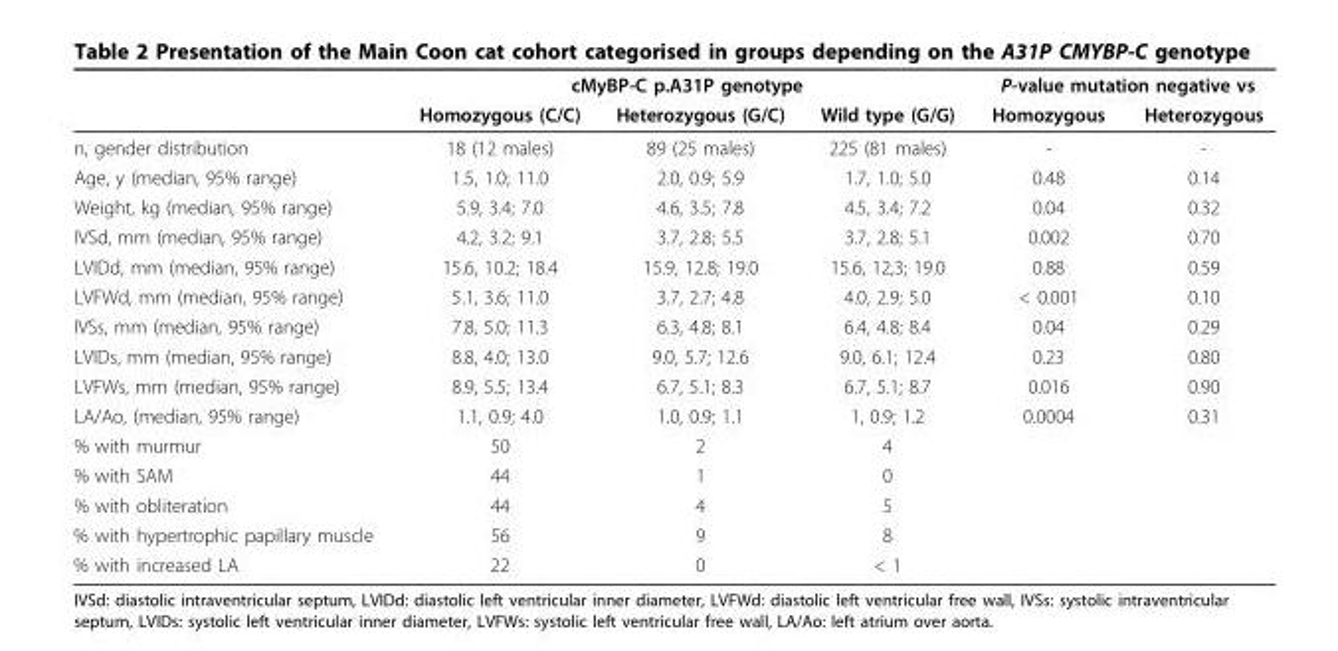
<table><thead><tr><td rowspan="2"></td><td colspan="3">cMyBP-C p.A31P genotype</td><td colspan="2">P-value mutation negative vs</td></tr><tr><td>Homozygous (C/C)</td><td>Heterozygous (G/C)</td><td>Wild type (G/G)</td><td>Homozygous</td><td>Heterozygous</td></tr></thead><tbody><tr><td>n, gender distribution</td><td>18 (12 males)</td><td>89 (25 males)</td><td>225 (81 males)</td><td>-</td><td>-</td></tr><tr><td>Age, y (median, 95% range)</td><td>1.5, 1.0; 11.0</td><td>2.0, 0.9; 5.9</td><td>1.7, 1.0; 5.0</td><td>0.48</td><td>0.14</td></tr><tr><td>Weight, kg (median, 95% range)</td><td>5.9, 3.4; 7.0</td><td>4.6, 3.5; 7.8</td><td>4.5, 3.4; 7.2</td><td>0.04</td><td>0.32</td></tr><tr><td>IVSd, mm (median, 95% range)</td><td>4.2, 3.2; 9.1</td><td>3.7, 2.8; 5.5</td><td>3.7, 2.8; 5.1</td><td>0.002</td><td>0.70</td></tr><tr><td>LVIDd, mm (median, 95% range)</td><td>15.6, 10.2; 18.4</td><td>15.9, 12.8; 19.0</td><td>15.6, 12,3; 19.0</td><td>0.88</td><td>0.59</td></tr><tr><td>LVFWd, mm (median, 95% range)</td><td>5.1, 3.6; 11.0</td><td>3.7, 2.7; 4.8</td><td>4.0, 2.9; 5.0</td><td>&lt; 0.001</td><td>0.10</td></tr><tr><td>IVSs, mm (median, 95% range)</td><td>7.8, 5.0; 11.3</td><td>6.3, 4.8; 8.1</td><td>6.4, 4.8; 8.4</td><td>0.04</td><td>0.29</td></tr><tr><td>LVIDs, mm (median, 95% range)</td><td>8.8, 4.0; 13.0</td><td>9.0, 5.7; 12.6</td><td>9.0, 6.1; 12.4</td><td>0.23</td><td>0.80</td></tr><tr><td>LVFWs, mm (median, 95% range)</td><td>8.9, 5.5; 13.4</td><td>6.7, 5.1; 8.3</td><td>6.7, 5.1; 8.7</td><td>0.016</td><td>0.90</td></tr><tr><td>LA/Ao, (median, 95% range)</td><td>1.1, 0.9; 4.0</td><td>1.0, 0.9; 1.1</td><td>1, 0.9; 1.2</td><td>0.0004</td><td>0.31</td></tr><tr><td>% with murmur</td><td>50</td><td>2</td><td>4</td><td></td><td></td></tr><tr><td>% with SAM</td><td>44</td><td>1</td><td>0</td><td></td><td></td></tr><tr><td>% with obliteration</td><td>44</td><td>4</td><td>5</td><td></td><td></td></tr><tr><td>% with hypertrophic papillary muscle</td><td>56</td><td>9</td><td>8</td><td></td><td></td></tr><tr><td>% with increased LA</td><td>22</td><td>0</td><td>&lt; 1</td><td></td><td></td></tr></tbody></table>